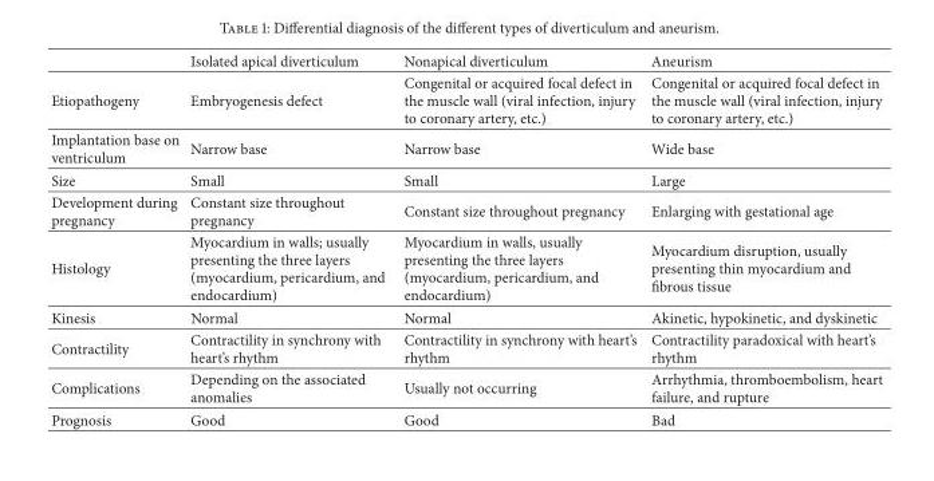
<table><thead><tr><td></td><td>Isolated apical diverticulum</td><td>Nonapical diverticulum</td><td>Aneurism</td></tr></thead><tbody><tr><td>Etiopathogeny</td><td>Embryogenesis defect</td><td>Congenital or acquired focal defect in the muscle wall (viral infection, injury to coronary artery, etc.)</td><td>Congenital or acquired focal defect in the muscle wall (viral infection, injury to coronary artery, etc.)</td></tr><tr><td>Implantation base on ventriculum</td><td>Narrow base</td><td>Narrow base</td><td>Wide base</td></tr><tr><td>Size</td><td>Small</td><td>Small</td><td>Large</td></tr><tr><td>Development during pregnancy</td><td>Constant size throughout pregnancy</td><td>Constant size throughout pregnancy</td><td>Enlarging with gestational age</td></tr><tr><td>Histology</td><td>Myocardium in walls; usually presenting the three layers (myocardium, pericardium, and endocardium)</td><td>Myocardium in walls, usually presenting the three layers (myocardium, pericardium, and endocardium)</td><td>Myocardium disruption, usually presenting thin myocardium and fibrous tissue</td></tr><tr><td>Kinesis</td><td>Normal</td><td>Normal</td><td>Akinetic, hypokinetic, and dyskinetic</td></tr><tr><td>Contractility</td><td>Contractility in synchrony with heart’s rhythm</td><td>Contractility in synchrony with heart’s rhythm</td><td>Contractility paradoxical with heart’s rhythm</td></tr><tr><td>Complications</td><td>Depending on the associated anomalies</td><td>Usually not occurring</td><td>Arrhythmia, thromboembolism, heart failure, and rupture</td></tr><tr><td>Prognosis</td><td>Good</td><td>Good</td><td>Bad</td></tr></tbody></table>